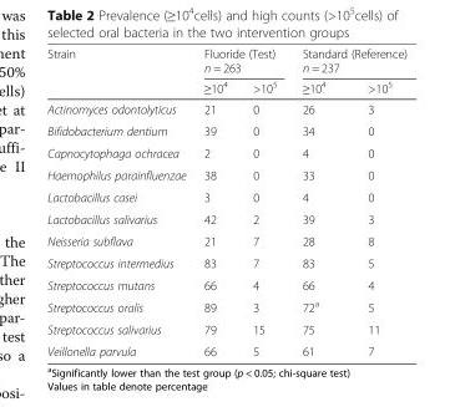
<table><thead><tr><td rowspan="3">Strain</td><td rowspan="2" colspan="2">Fluoride (Test) n = 263</td><td rowspan="2" colspan="2">Standard (Reference) n = 237</td></tr><tr></tr><tr><td>≥10<sup>4</sup></td><td>&gt;10<sup>5</sup></td><td>≥10<sup>4</sup></td><td>&gt;10<sup>5</sup></td></tr></thead><tbody><tr><td>Actinomyces odontolyticus</td><td>21</td><td>0</td><td>26</td><td>3</td></tr><tr><td>Bifidobacterium dentium</td><td>39</td><td>0</td><td>34</td><td>0</td></tr><tr><td>Capnocytophaga ochracea</td><td>2</td><td>0</td><td>4</td><td>0</td></tr><tr><td>Haemophilus parainfluenzae</td><td>38</td><td>0</td><td>33</td><td>0</td></tr><tr><td>Lactobacillus casei</td><td>3</td><td>0</td><td>4</td><td>0</td></tr><tr><td>Lactobacillus salivarius</td><td>42</td><td>2</td><td>39</td><td>3</td></tr><tr><td>Neisseria subflava</td><td>21</td><td>7</td><td>28</td><td>8</td></tr><tr><td>Streptococcus intermedius</td><td>83</td><td>7</td><td>83</td><td>5</td></tr><tr><td>Streptococcus mutans</td><td>66</td><td>4</td><td>66</td><td>4</td></tr><tr><td>Streptococcus oralis</td><td>89</td><td>3</td><td>72<sup>a</sup></td><td>5</td></tr><tr><td>Streptococcus salivarius</td><td>79</td><td>15</td><td>75</td><td>11</td></tr><tr><td>Veillonella parvula</td><td>66</td><td>5</td><td>61</td><td>7</td></tr></tbody></table>